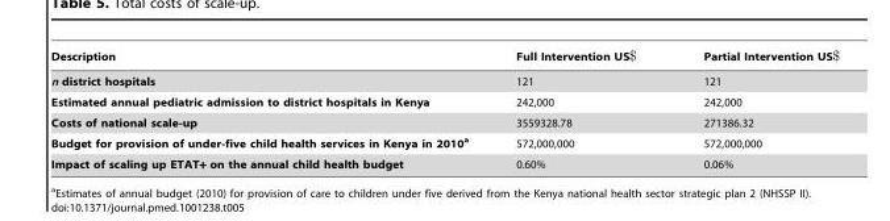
<table><thead><tr><td>Description</td><td>Full Intervention US$</td><td>Partial Intervention US$</td></tr></thead><tbody><tr><td>n district hospitals</td><td>121</td><td>121</td></tr><tr><td>Estimated annual pediatric admission to district hospitals in Kenya</td><td>242,000</td><td>242,000</td></tr><tr><td>Costs of national scale-up</td><td>3559328.78</td><td>271386.32</td></tr><tr><td>Budget for provision of under-five child health services in Kenya in 2010a</td><td>572,000,000</td><td>572,000,000</td></tr><tr><td>Impact of scaling up ETAT+ on the annual child health budget</td><td>0.60%</td><td>0.06%</td></tr></tbody></table>